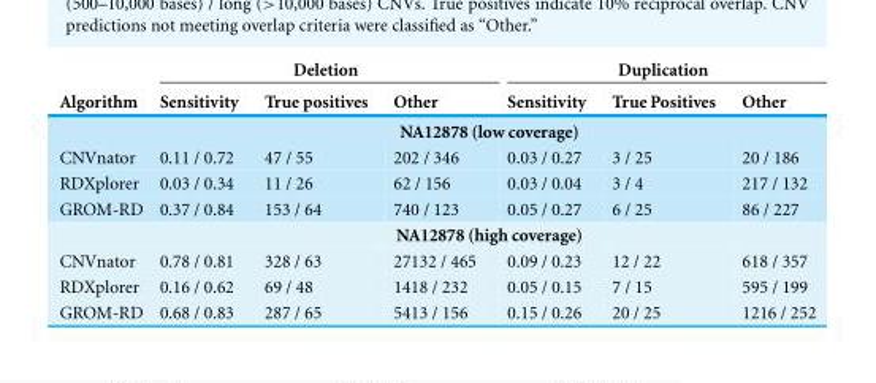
<table><thead><tr><td rowspan="2">Algorithm</td><td colspan="3">Deletion</td><td colspan="3">Duplication</td></tr><tr><td>Sensitivity</td><td>True positives</td><td>Other</td><td>Sensitivity</td><td>True Positives</td><td>Other</td></tr></thead><tbody><tr><td></td><td colspan="6">NA12878 (low coverage)</td></tr><tr><td>CNVnator</td><td>0.11 / 0.72</td><td>47 / 55</td><td>202 / 346</td><td>0.03 / 0.27</td><td>3 / 25</td><td>20 / 186</td></tr><tr><td>RDXplorer</td><td>0.03 / 0.34</td><td>11 / 26</td><td>62 / 156</td><td>0.03 / 0.04</td><td>3 / 4</td><td>217 / 132</td></tr><tr><td rowspan="2">GROM-RD</td><td>0.37 / 0.84</td><td>153 / 64</td><td>740 / 123</td><td>0.05 / 0.27</td><td>6 / 25</td><td>86 / 227</td></tr><tr><td colspan="6">NA12878 (high coverage)</td></tr><tr><td>CNVnator</td><td>0.78 / 0.81</td><td>328 / 63</td><td>27132 / 465</td><td>0.09 / 0.23</td><td>12 / 22</td><td>618 / 357</td></tr><tr><td>RDXplorer</td><td>0.16 / 0.62</td><td>69 / 48</td><td>1418 / 232</td><td>0.05 / 0.15</td><td>7 / 15</td><td>595 / 199</td></tr><tr><td>GROM-RD</td><td>0.68 / 0.83</td><td>287 / 65</td><td>5413 / 156</td><td>0.15 / 0.26</td><td>20 / 25</td><td>1216 / 252</td></tr></tbody></table>